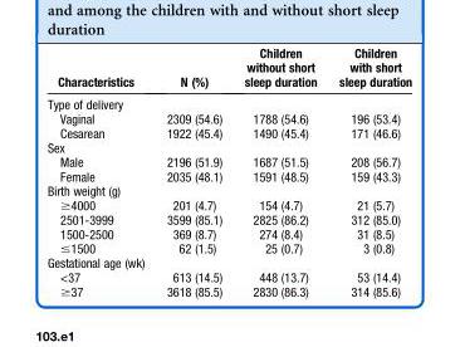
<table><thead><tr><td>Characteristics</td><td>N (%)</td><td>Children without short sleep duration</td><td>Children with short sleep duration</td></tr></thead><tbody><tr><td colspan="4">Type of delivery</td></tr><tr><td>Vaginal</td><td>2309 (54.6)</td><td>1788 (54.6)</td><td>196 (53.4)</td></tr><tr><td>Cesarean</td><td>1922 (45.4)</td><td>1490 (45.4)</td><td>171 (46.6)</td></tr><tr><td colspan="4">Sex</td></tr><tr><td>Male</td><td>2196 (51.9)</td><td>1687 (51.5)</td><td>208 (56.7)</td></tr><tr><td>Female</td><td>2035 (48.1)</td><td>1591 (48.5)</td><td>159 (43.3)</td></tr><tr><td colspan="4">Birth weight (g)</td></tr><tr><td>≥4000</td><td>201 (4.7)</td><td>154 (4.7)</td><td>21 (5.7)</td></tr><tr><td>2501-3999</td><td>3599 (85.1)</td><td>2825 (86.2)</td><td>312 (85.0)</td></tr><tr><td>1500-2500</td><td>369 (8.7)</td><td>274 (8.4)</td><td>31 (8.5)</td></tr><tr><td>≤1500</td><td>62 (1.5)</td><td>25 (0.7)</td><td>3 (0.8)</td></tr><tr><td colspan="4">Gestational age (wk)</td></tr><tr><td>&lt;37</td><td>613 (14.5)</td><td>448 (13.7)</td><td>53 (14.4)</td></tr><tr><td>≥37</td><td>3618 (85.5)</td><td>2830 (86.3)</td><td>314 (85.6)</td></tr></tbody></table>